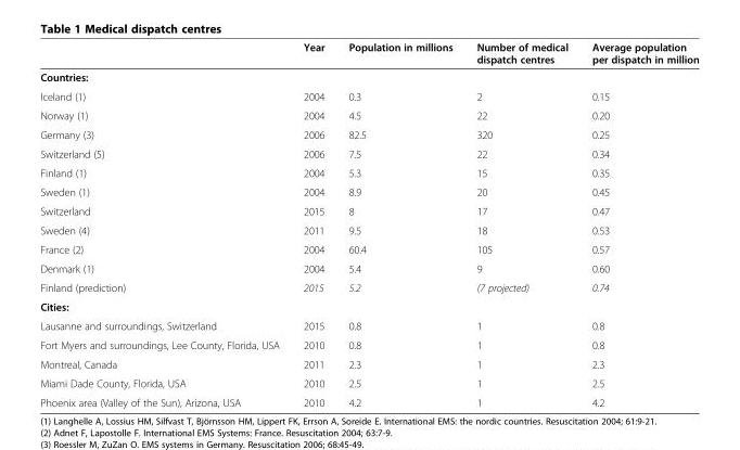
<table><thead><tr><td></td><td>Year</td><td>Population in millions</td><td>Number of medical dispatch centres</td><td>Average population per dispatch in million</td></tr></thead><tbody><tr><td colspan="5">Countries:</td></tr><tr><td>Iceland (1)</td><td>2004</td><td>0.3</td><td>2</td><td>0.15</td></tr><tr><td>Norway (1)</td><td>2004</td><td>4.5</td><td>22</td><td>0.20</td></tr><tr><td>Germany (3)</td><td>2006</td><td>82.5</td><td>320</td><td>0.25</td></tr><tr><td>Switzerland (5)</td><td>2006</td><td>7.5</td><td>22</td><td>0.34</td></tr><tr><td>Finland (1)</td><td>2004</td><td>5.3</td><td>15</td><td>0.35</td></tr><tr><td>Sweden (1)</td><td>2004</td><td>8.9</td><td>20</td><td>0.45</td></tr><tr><td>Switzerland</td><td>2015</td><td>8</td><td>17</td><td>0.47</td></tr><tr><td>Sweden (4)</td><td>2011</td><td>9.5</td><td>18</td><td>0.53</td></tr><tr><td>France (2)</td><td>2004</td><td>60.4</td><td>105</td><td>0.57</td></tr><tr><td>Denmark (1)</td><td>2004</td><td>5.4</td><td>9</td><td>0.60</td></tr><tr><td>Finland (prediction)</td><td>2015</td><td>5.2</td><td>(7 projected)</td><td>0.74</td></tr><tr><td colspan="5">Cities:</td></tr><tr><td>Lausanne and surroundings, Switzerland</td><td>2015</td><td>0.8</td><td>1</td><td>0.8</td></tr><tr><td>Fort Myers and surroundings, Lee County, Florida, USA</td><td>2010</td><td>0.8</td><td>1</td><td>0.8</td></tr><tr><td>Montreal, Canada</td><td>2011</td><td>2.3</td><td>1</td><td>2.3</td></tr><tr><td>Miami Dade County, Florida, USA</td><td>2010</td><td>2.5</td><td>1</td><td>2.5</td></tr><tr><td>Phoenix area (Valley of the Sun), Arizona, USA</td><td>2010</td><td>4.2</td><td>1</td><td>4.2</td></tr></tbody></table>